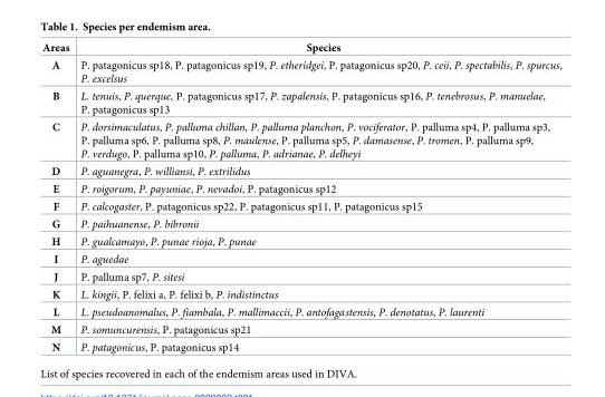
<table><thead><tr><td>Areas</td><td>Species</td></tr></thead><tbody><tr><td>A</td><td>P. patagonicus sp18, P. patagonicus sp19, P. etheridgei, P. patagonicus sp20, P. ceii, P. spectabilis, P. spurcus, P. excelsus</td></tr><tr><td>B</td><td>L. tenuis, P. querque, P. patagonicus sp17, P. zapalensis, P. patagonicus sp16, P. tenebrosus, P. manuelae, P. patagonicus sp13</td></tr><tr><td>C</td><td>P. dorsimaculatus, P. palluma chillan, P. palluma planchon, P. vociferator, P. palluma sp4, P. palluma sp3, P. palluma sp6, P. palluma sp8, P. maulense, P. palluma sp5, P. damasense, P. tromen, P. palluma sp9, P. verdugo, P. palluma sp10, P. palluma, P. adrianae, P. delheyi</td></tr><tr><td>D</td><td>P. aguanegra, P. williansi, P. extrilidus</td></tr><tr><td>E</td><td>P. roigorum, P. payuniae, P. nevadoi, P. patagonicus sp12</td></tr><tr><td>F</td><td>P. calcogaster, P. patagonicus sp22, P. patagonicus sp11, P. patagonicus sp15</td></tr><tr><td>G</td><td>P. paihuanense, P. bibronii</td></tr><tr><td>H</td><td>P. gualcamayo, P. punae rioja, P. punae</td></tr><tr><td>I</td><td>P. aguedae</td></tr><tr><td>J</td><td>P. palluma sp7, P. sitesi</td></tr><tr><td>K</td><td>L. kingii, P. felixi a, P. felixi b, P. indistinctus</td></tr><tr><td>L</td><td>L. pseudoanomalus, P. fiambala, P. mallimaccii, P. antofagastensis, P. denotatus, P. laurenti</td></tr><tr><td>M</td><td>P. somuncurensis, P. patagonicus sp21</td></tr><tr><td>N</td><td>P. patagonicus, P. patagonicus sp14</td></tr></tbody></table>